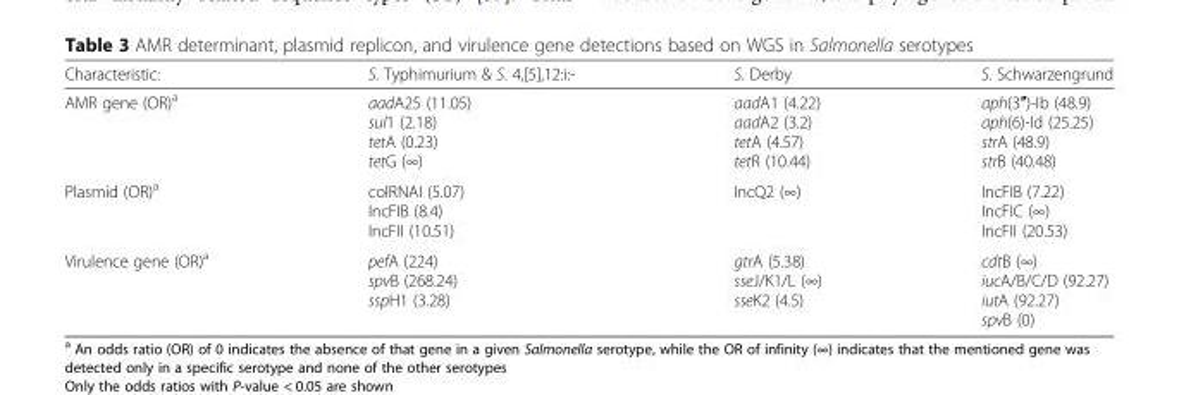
<table><thead><tr><td>Characteristic:</td><td>S. Typhimurium &amp; S. 4,[5],12:i:-</td><td>S. Derby</td><td>S. Schwarzengrund</td></tr></thead><tbody><tr><td>AMR gene (OR)<sup>a</sup></td><td>aadA25 (11.05) sul1 (2.18) tetA (0.23) tetG (∞)</td><td>aadA1 (4.22) aadA2 (3.2) tetA (4.57) tetR (10.44)</td><td>aph(3″)-Ib (48.9) aph(6)-Id (25.25) strA (48.9) strB (40.48)</td></tr><tr><td>Plasmid (OR)<sup>a</sup></td><td>colRNAI (5.07) IncFIB (8.4) IncFII (10.51)</td><td>IncQ2 (∞)</td><td>IncFIB (7.22) IncFIC (∞) IncFII (20.53)</td></tr><tr><td>Virulence gene (OR)<sup>a</sup></td><td>pefA (224) spvB (268.24) sspH1 (3.28)</td><td>gtrA (5.38) sseJ/K1/L (∞) sseK2 (4.5)</td><td>cdtB (∞) iucA/B/C/D (92.27) iutA (92.27) spvB (0)</td></tr></tbody></table>